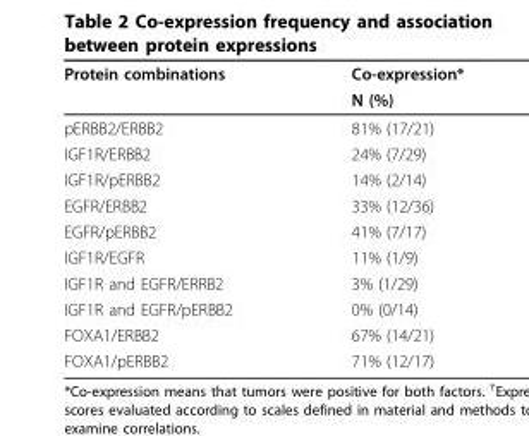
<table><thead><tr><td rowspan="2">Protein combinations</td><td rowspan="2">Co-expression* N (%)</td></tr><tr></tr></thead><tbody><tr><td>pERBB2/ERBB2</td><td>81% (17/21)</td></tr><tr><td>IGF1R/ERBB2</td><td>24% (7/29)</td></tr><tr><td>IGF1R/pERBB2</td><td>14% (2/14)</td></tr><tr><td>EGFR/ERBB2</td><td>33% (12/36)</td></tr><tr><td>EGFR/pERBB2</td><td>41% (7/17)</td></tr><tr><td>IGF1R/EGFR</td><td>11% (1/9)</td></tr><tr><td>IGF1R and EGFR/ERRB2</td><td>3% (1/29)</td></tr><tr><td>IGF1R and EGFR/pERBB2</td><td>0% (0/14)</td></tr><tr><td>FOXA1/ERBB2</td><td>67% (14/21)</td></tr><tr><td>FOXA1/pERBB2</td><td>71% (12/17)</td></tr></tbody></table>